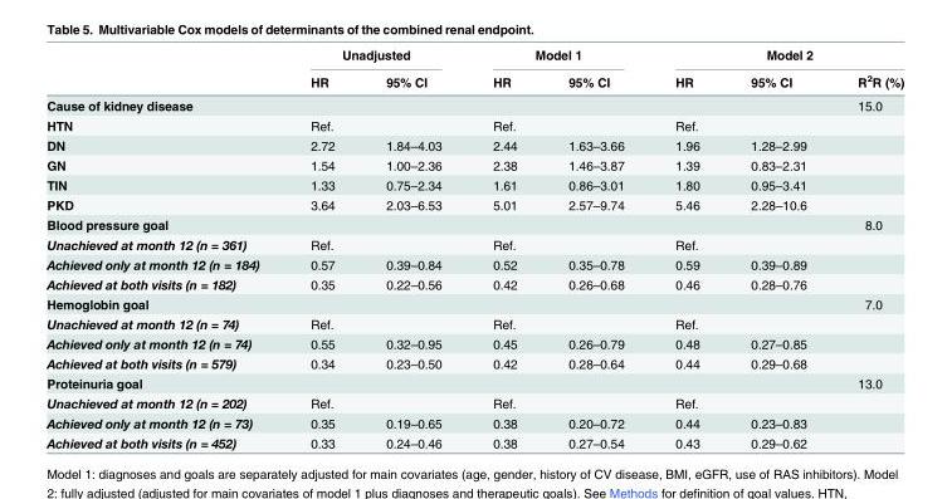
<table><thead><tr><td rowspan="2"></td><td colspan="2">Unadjusted</td><td colspan="2">Model 1</td><td colspan="3">Model 2</td></tr><tr><td>HR</td><td>95% CI</td><td>HR</td><td>95% CI</td><td>HR</td><td>95% CI</td><td>R<sup>2</sup>R (%)</td></tr></thead><tbody><tr><td>Cause of kidney disease</td><td></td><td></td><td></td><td></td><td></td><td></td><td>15.0</td></tr><tr><td>HTN</td><td>Ref.</td><td></td><td>Ref.</td><td></td><td>Ref.</td><td></td><td></td></tr><tr><td>DN</td><td>2.72</td><td>1.84–4.03</td><td>2.44</td><td>1.63–3.66</td><td>1.96</td><td>1.28–2.99</td><td></td></tr><tr><td>GN</td><td>1.54</td><td>1.00–2.36</td><td>2.38</td><td>1.46–3.87</td><td>1.39</td><td>0.83–2.31</td><td></td></tr><tr><td>TIN</td><td>1.33</td><td>0.75–2.34</td><td>1.61</td><td>0.86–3.01</td><td>1.80</td><td>0.95–3.41</td><td></td></tr><tr><td>PKD</td><td>3.64</td><td>2.03–6.53</td><td>5.01</td><td>2.57–9.74</td><td>5.46</td><td>2.28–10.6</td><td></td></tr><tr><td>Blood pressure goal</td><td></td><td></td><td></td><td></td><td></td><td></td><td>8.0</td></tr><tr><td>Unachieved at month 12 (n = 361)</td><td>Ref.</td><td></td><td>Ref.</td><td></td><td>Ref.</td><td></td><td></td></tr><tr><td>Achieved only at month 12 (n = 184)</td><td>0.57</td><td>0.39–0.84</td><td>0.52</td><td>0.35–0.78</td><td>0.59</td><td>0.39–0.89</td><td></td></tr><tr><td>Achieved at both visits (n = 182)</td><td>0.35</td><td>0.22–0.56</td><td>0.42</td><td>0.26–0.68</td><td>0.46</td><td>0.28–0.76</td><td></td></tr><tr><td>Hemoglobin goal</td><td></td><td></td><td></td><td></td><td></td><td></td><td>7.0</td></tr><tr><td>Unachieved at month 12 (n = 74)</td><td>Ref.</td><td></td><td>Ref.</td><td></td><td>Ref.</td><td></td><td></td></tr><tr><td>Achieved only at month 12 (n = 74)</td><td>0.55</td><td>0.32–0.95</td><td>0.45</td><td>0.26–0.79</td><td>0.48</td><td>0.27–0.85</td><td></td></tr><tr><td>Achieved at both visits (n = 579)</td><td>0.34</td><td>0.23–0.50</td><td>0.42</td><td>0.28–0.64</td><td>0.44</td><td>0.29–0.68</td><td></td></tr><tr><td>Proteinuria goal</td><td></td><td></td><td></td><td></td><td></td><td></td><td>13.0</td></tr><tr><td>Unachieved at month 12 (n = 202)</td><td>Ref.</td><td></td><td>Ref.</td><td></td><td>Ref.</td><td></td><td></td></tr><tr><td>Achieved only at month 12 (n = 73)</td><td>0.35</td><td>0.19–0.65</td><td>0.38</td><td>0.20–0.72</td><td>0.44</td><td>0.23–0.83</td><td></td></tr><tr><td>Achieved at both visits (n = 452)</td><td>0.33</td><td>0.24–0.46</td><td>0.38</td><td>0.27–0.54</td><td>0.43</td><td>0.29–0.62</td><td></td></tr></tbody></table>